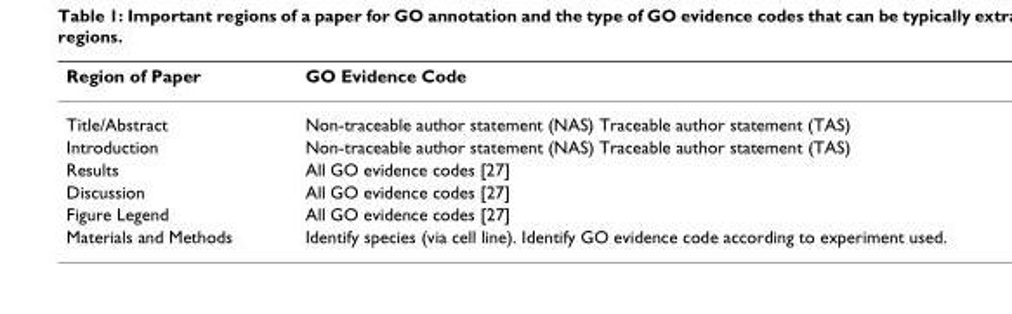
<table><thead><tr><td>Region of Paper</td><td>GO Evidence Code</td></tr></thead><tbody><tr><td>Title/Abstract</td><td>Non-traceable author statement (NAS) Traceable author statement (TAS)</td></tr><tr><td>Introduction</td><td>Non-traceable author statement (NAS) Traceable author statement (TAS)</td></tr><tr><td>Results</td><td>All GO evidence codes [27]</td></tr><tr><td>Discussion</td><td>All GO evidence codes [27]</td></tr><tr><td>Figure Legend</td><td>All GO evidence codes [27]</td></tr><tr><td>Materials and Methods</td><td>Identify species (via cell line). Identify GO evidence code according to experiment used.</td></tr></tbody></table>